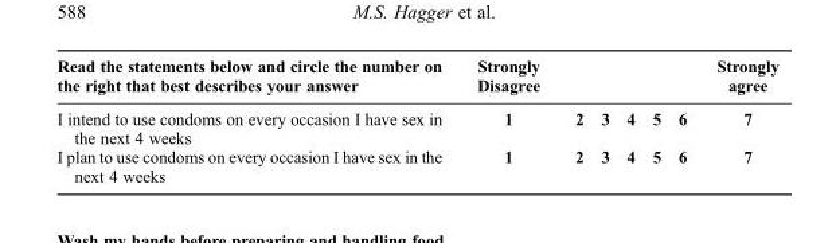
<table><thead><tr><td>Read the statements below and circle the number on the right that best describes your answer</td><td>Strongly Disagree</td><td></td><td></td><td></td><td></td><td></td><td>Strongly agree</td></tr></thead><tbody><tr><td>I intend to use condoms on every occasion I have sex in the next 4 weeks</td><td>1</td><td>2</td><td>3</td><td>4</td><td>5</td><td>6</td><td>7</td></tr><tr><td>I plan to use condoms on every occasion I have sex in the next 4 weeks</td><td>1</td><td>2</td><td>3</td><td>4</td><td>5</td><td>6</td><td>7</td></tr></tbody></table>